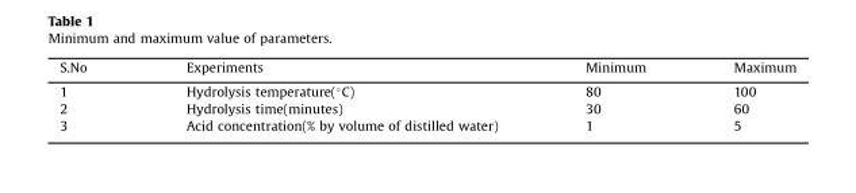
<table><thead><tr><td>S.No</td><td>Experiments</td><td>Minimum</td><td>Maximum</td></tr></thead><tbody><tr><td>1</td><td>Hydrolysis temperature(°C)</td><td>80</td><td>100</td></tr><tr><td>2</td><td>Hydrolysis time(minutes)</td><td>30</td><td>60</td></tr><tr><td>3</td><td>Acid concentration(% by volume of distilled water)</td><td>1</td><td>5</td></tr></tbody></table>